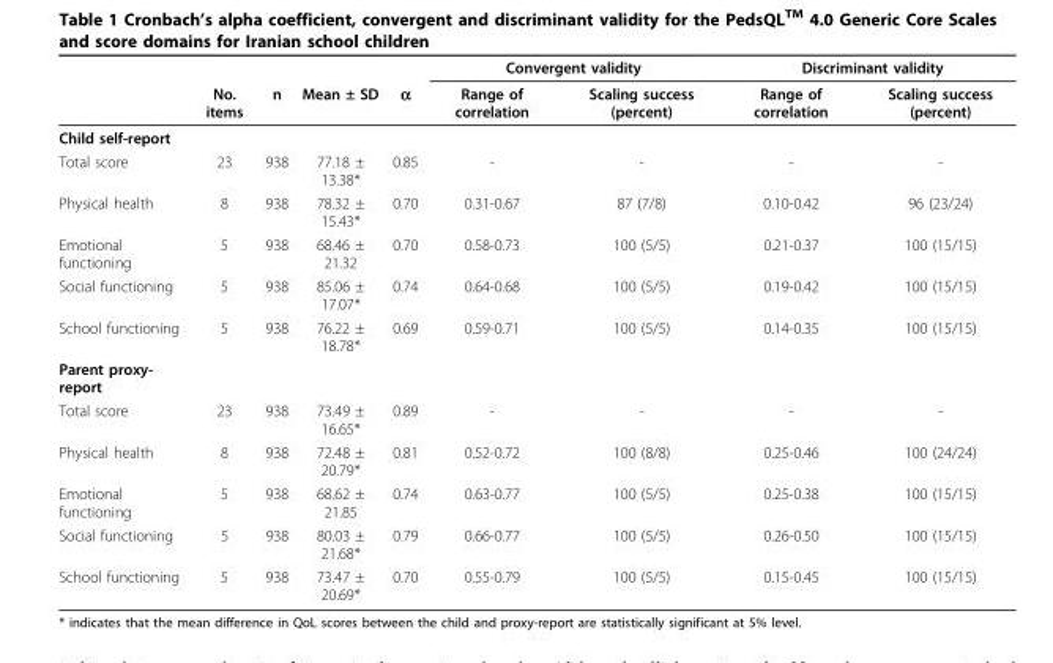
<table><thead><tr><td rowspan="2"></td><td rowspan="2">No. items</td><td rowspan="2">n</td><td rowspan="2">Mean ± SD</td><td rowspan="2">α</td><td colspan="2">Convergent validity</td><td colspan="2">Discriminant validity</td></tr><tr><td>Range of correlation</td><td>Scaling success (percent)</td><td>Range of correlation</td><td>Scaling success (percent)</td></tr></thead><tbody><tr><td colspan="9">Child self-report</td></tr><tr><td>Total score</td><td>23</td><td>938</td><td>77.18 ± 13.38*</td><td>0.85</td><td>-</td><td>-</td><td>-</td><td>-</td></tr><tr><td>Physical health</td><td>8</td><td>938</td><td>78.32 ± 15.43*</td><td>0.70</td><td>0.31-0.67</td><td>87 (7/8)</td><td>0.10-0.42</td><td>96 (23/24)</td></tr><tr><td>Emotional functioning</td><td>5</td><td>938</td><td>68.46 ± 21.32</td><td>0.70</td><td>0.58-0.73</td><td>100 (5/5)</td><td>0.21-0.37</td><td>100 (15/15)</td></tr><tr><td>Social functioning</td><td>5</td><td>938</td><td>85.06 ± 17.07*</td><td>0.74</td><td>0.64-0.68</td><td>100 (5/5)</td><td>0.19-0.42</td><td>100 (15/15)</td></tr><tr><td>School functioning</td><td>5</td><td>938</td><td>76.22 ± 18.78*</td><td>0.69</td><td>0.59-0.71</td><td>100 (5/5)</td><td>0.14-0.35</td><td>100 (15/15)</td></tr><tr><td colspan="9">Parent proxy- report</td></tr><tr><td>Total score</td><td>23</td><td>938</td><td>73.49 ± 16.65*</td><td>0.89</td><td>-</td><td>-</td><td>-</td><td>-</td></tr><tr><td>Physical health</td><td>8</td><td>938</td><td>72.48 ± 20.79*</td><td>0.81</td><td>0.52-0.72</td><td>100 (8/8)</td><td>0.25-0.46</td><td>100 (24/24)</td></tr><tr><td>Emotional functioning</td><td>5</td><td>938</td><td>68.62 ± 21.85</td><td>0.74</td><td>0.63-0.77</td><td>100 (5/5)</td><td>0.25-0.38</td><td>100 (15/15)</td></tr><tr><td>Social functioning</td><td>5</td><td>938</td><td>80.03 ± 21.68*</td><td>0.79</td><td>0.66-0.77</td><td>100 (5/5)</td><td>0.26-0.50</td><td>100 (15/15)</td></tr><tr><td>School functioning</td><td>5</td><td>938</td><td>73.47 ± 20.69*</td><td>0.70</td><td>0.55-0.79</td><td>100 (5/5)</td><td>0.15-0.45</td><td>100 (15/15)</td></tr></tbody></table>